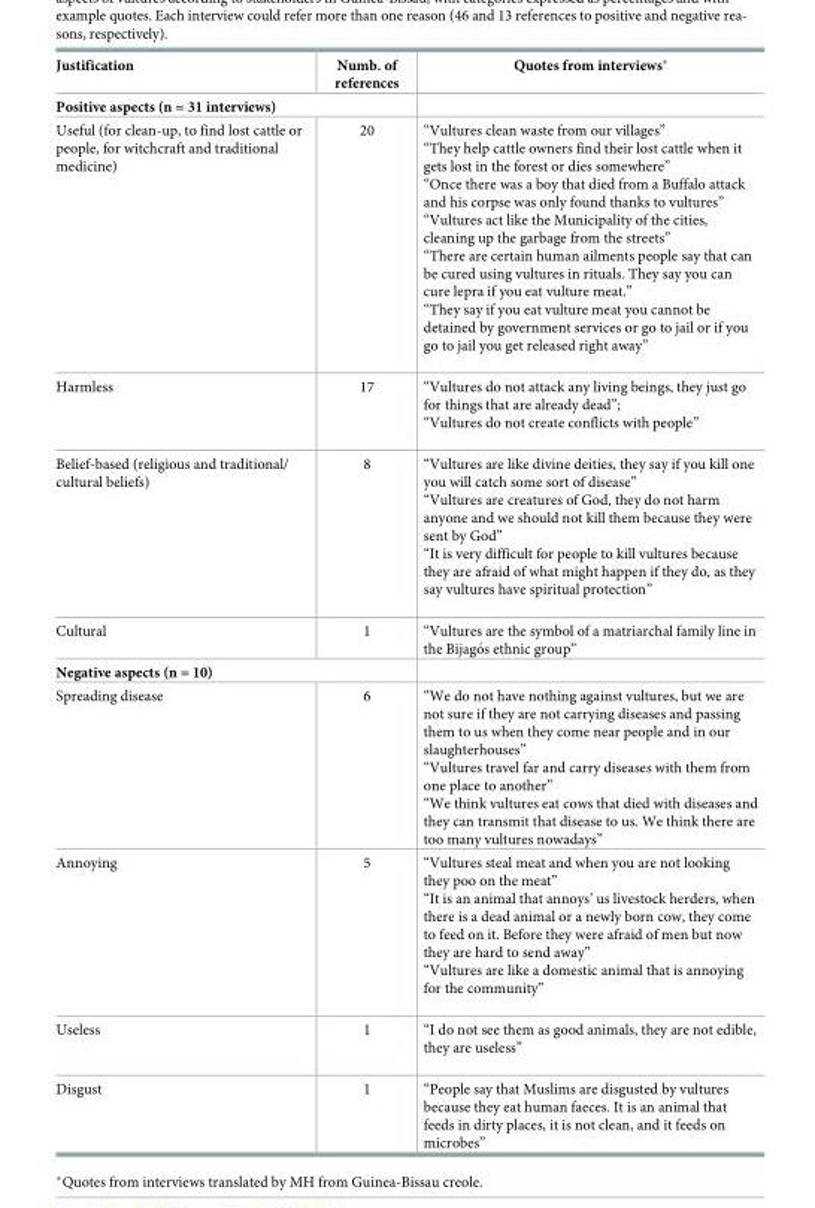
<table><thead><tr><td>Justification</td><td>Numb. of references</td><td>Quotes from interviews*</td></tr></thead><tbody><tr><td colspan="3">Positive aspects (n = 31 interviews)</td></tr><tr><td>Useful (for clean-up, to find lost cattle or people, for witchcraft and traditional medicine)</td><td>20</td><td>“Vultures clean waste from our villages” “They help cattle owners find their lost cattle when it gets lost in the forest or dies somewhere” “Once there was a boy that died from a Buffalo attack and his corpse was only found thanks to vultures” “Vultures act like the Municipality of the cities, cleaning up the garbage from the streets” “There are certain human ailments people say that can be cured using vultures in rituals. They say you can cure lepra if you eat vulture meat.” “They say if you eat vulture meat you cannot be detained by government services or go to jail or if you go to jail you get released right away”</td></tr><tr><td>Harmless</td><td>17</td><td>“Vultures do not attack any living beings, they just go for things that are already dead”; “Vultures do not create conflicts with people”</td></tr><tr><td>Belief-based (religious and traditional/ cultural beliefs)</td><td>8</td><td>“Vultures are like divine deities, they say if you kill one you will catch some sort of disease” “Vultures are creatures of God, they do not harm anyone and we should not kill them because they were sent by God” “It is very difficult for people to kill vultures because they are afraid of what might happen if they do, as they say vultures have spiritual protection”</td></tr><tr><td>Cultural</td><td>1</td><td>“Vultures are the symbol of a matriarchal family line in the Bijago´s ethnic group”</td></tr><tr><td colspan="3">Negative aspects (n = 10)</td></tr><tr><td>Spreading disease</td><td>6</td><td>“We do not have nothing against vultures, but we are not sure if they are not carrying diseases and passing them to us when they come near people and in our slaughterhouses” “Vultures travel far and carry diseases with them from one place to another” “We think vultures eat cows that died with diseases and they can transmit that disease to us. We think there are too many vultures nowadays”</td></tr><tr><td>Annoying</td><td>5</td><td>“Vultures steal meat and when you are not looking they poo on the meat” “It is an animal that annoys’ us livestock herders, when there is a dead animal or a newly born cow, they come to feed on it. Before they were afraid of men but now they are hard to send away” “Vultures are like a domestic animal that is annoying for the community”</td></tr><tr><td>Useless</td><td>1</td><td>“I do not see them as good animals, they are not edible, they are useless”</td></tr><tr><td>Disgust</td><td>1</td><td>“People say that Muslims are disgusted by vultures because they eat human faeces. It is an animal that feeds in dirty places, it is not clean, and it feeds on microbes”</td></tr></tbody></table>